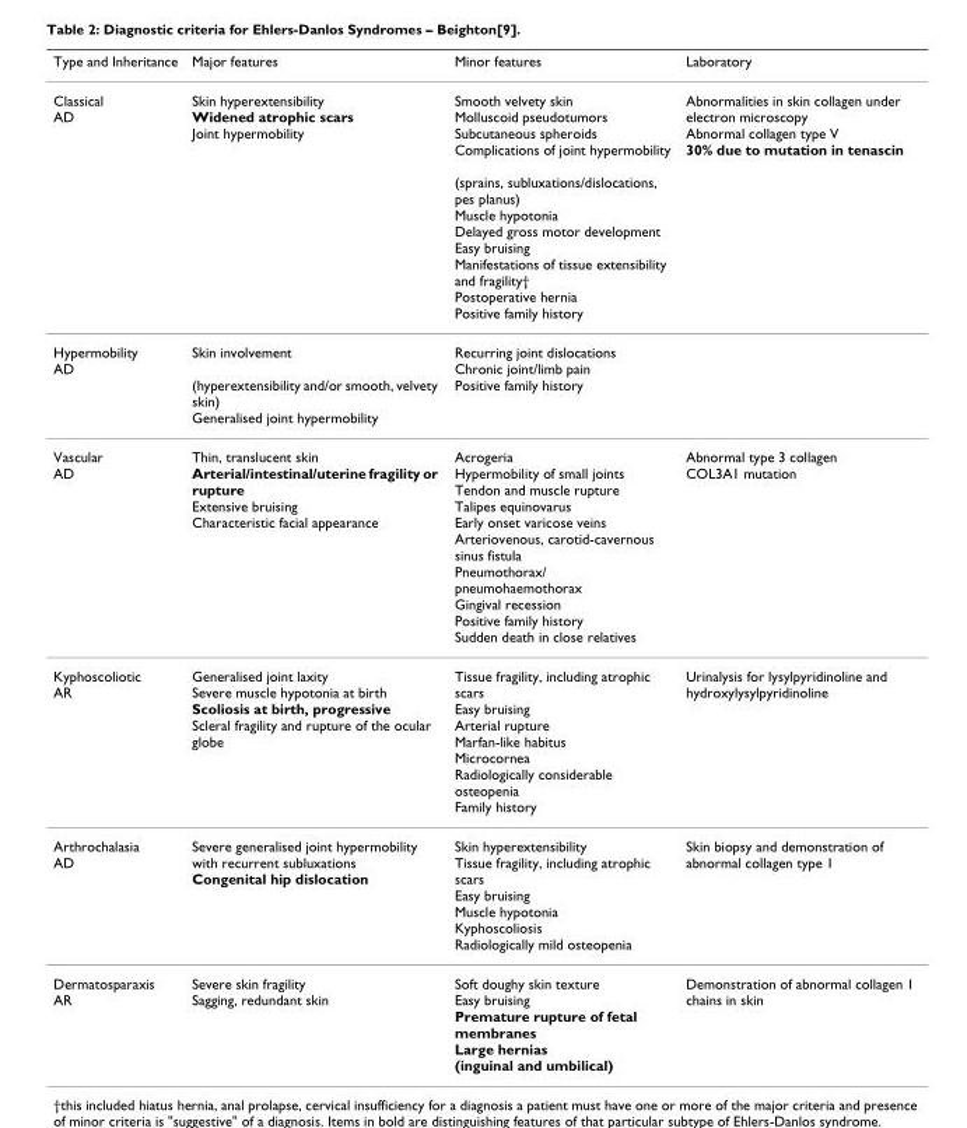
<table><thead><tr><td>Type and Inheritance</td><td>Major features</td><td>Minor features</td><td>Laboratory</td></tr></thead><tbody><tr><td>Classical AD</td><td>Skin hyperextensibility Widened atrophic scars Joint hypermobility</td><td>Smooth velvety skin Molluscoid pseudotumors Subcutaneous spheroids Complications of joint hypermobility (sprains, subluxations/dislocations, pes planus) Muscle hypotonia Delayed gross motor development Easy bruising Manifestations of tissue extensibility and fragility† Postoperative hernia Positive family history</td><td>Abnormalities in skin collagen under electron microscopy Abnormal collagen type V 30% due to mutation in tenascin</td></tr><tr><td>Hypermobility AD</td><td>Skin involvement (hyperextensibility and/or smooth, velvety skin) Generalised joint hypermobility</td><td>Recurring joint dislocations Chronic joint/limb pain Positive family history</td><td></td></tr><tr><td>Vascular AD</td><td>Thin, translucent skin Arterial/intestinal/uterine fragility or rupture Extensive bruising Characteristic facial appearance</td><td>Acrogeria Hypermobility of small joints Tendon and muscle rupture Talipes equinovarus Early onset varicose veins Arteriovenous, carotid-cavernous sinus fistula Pneumothorax/ pneumohaemothorax Gingival recession Positive family history Sudden death in close relatives</td><td>Abnormal type 3 collagen COL3A1 mutation</td></tr><tr><td>Kyphoscoliotic AR</td><td>Generalised joint laxity Severe muscle hypotonia at birth Scoliosis at birth, progressive Scleral fragility and rupture of the ocular globe</td><td>Tissue fragility, including atrophic scars Easy bruising Arterial rupture Marfan-like habitus Microcornea Radiologically considerable osteopenia Family history</td><td>Urinalysis for lysylpyridinoline and hydroxylysylpyridinoline</td></tr><tr><td>Arthrochalasia AD</td><td>Severe generalised joint hypermobility with recurrent subluxations Congenital hip dislocation</td><td>Skin hyperextensibility Tissue fragility, including atrophic scars Easy bruising Muscle hypotonia Kyphoscoliosis Radiologically mild osteopenia</td><td>Skin biopsy and demonstration of abnormal collagen type 1</td></tr><tr><td>Dermatosparaxis AR</td><td>Severe skin fragility Sagging, redundant skin</td><td>Soft doughy skin texture Easy bruising Premature rupture of fetal membranes Large hernias (inguinal and umbilical)</td><td>Demonstration of abnormal collagen 1 chains in skin</td></tr></tbody></table>